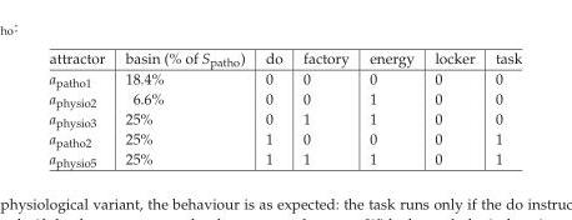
<table><thead><tr><td>attractor</td><td>basin (% of S<sub>patho</sub>)</td><td>do</td><td>factory</td><td>energy</td><td>locker</td><td>task</td></tr></thead><tbody><tr><td>a<sub>patho1</sub></td><td>18.4%</td><td>0</td><td>0</td><td>0</td><td>0</td><td>0</td></tr><tr><td>a<sub>physio2</sub></td><td>6.6%</td><td>0</td><td>0</td><td>1</td><td>0</td><td>0</td></tr><tr><td>a<sub>physio3</sub></td><td>25%</td><td>0</td><td>1</td><td>1</td><td>0</td><td>0</td></tr><tr><td>a<sub>patho2</sub></td><td>25%</td><td>1</td><td>0</td><td>0</td><td>0</td><td>1</td></tr><tr><td>a<sub>physio5</sub></td><td>25%</td><td>1</td><td>1</td><td>1</td><td>0</td><td>1</td></tr></tbody></table>